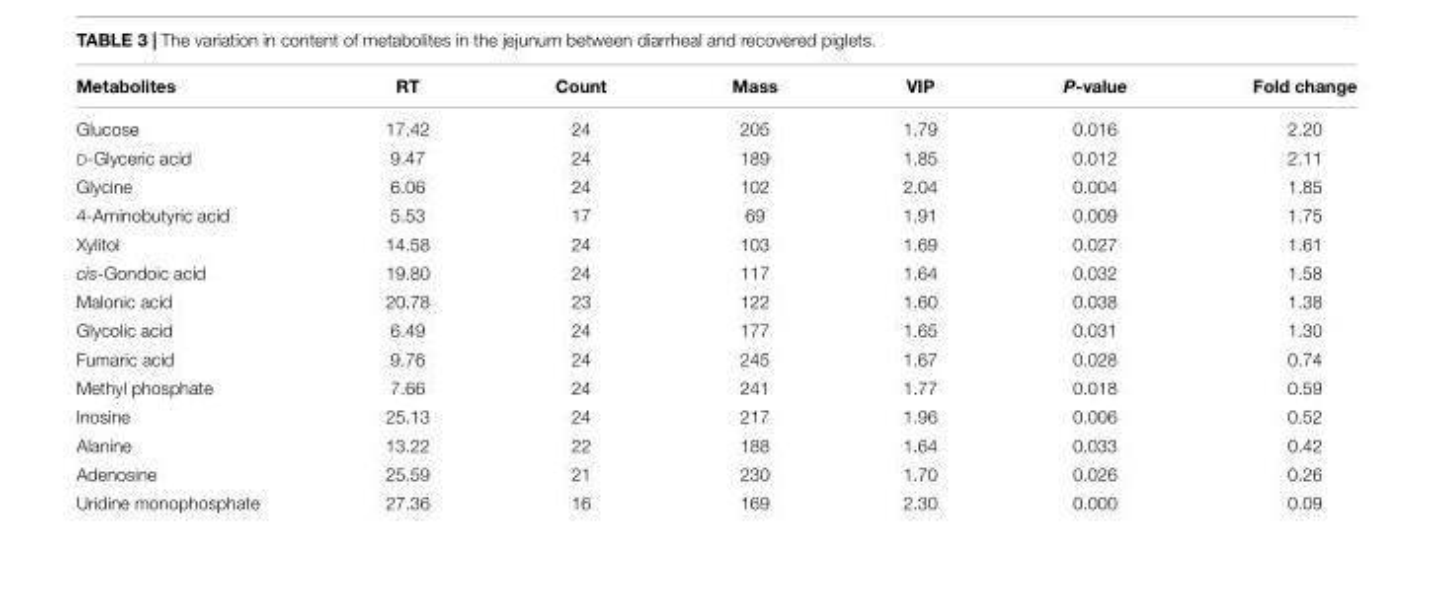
<table><thead><tr><td>Metabolites</td><td>RT</td><td>Count</td><td>Mass</td><td>VIP</td><td>P-value</td><td>Fold change</td></tr></thead><tbody><tr><td>Glucose</td><td>17.42</td><td>24</td><td>205</td><td>1.79</td><td>0.016</td><td>2.20</td></tr><tr><td>D-Glyceric acid</td><td>9.47</td><td>24</td><td>189</td><td>1.85</td><td>0.012</td><td>2.11</td></tr><tr><td>Glycine</td><td>6.06</td><td>24</td><td>102</td><td>2.04</td><td>0.004</td><td>1.85</td></tr><tr><td>4-Aminobutyric acid</td><td>5.53</td><td>17</td><td>69</td><td>1.91</td><td>0.009</td><td>1.75</td></tr><tr><td>Xylitol</td><td>14.58</td><td>24</td><td>103</td><td>1.69</td><td>0.027</td><td>1.61</td></tr><tr><td>cis-Gondoic acid</td><td>19.80</td><td>24</td><td>117</td><td>1.64</td><td>0.032</td><td>1.58</td></tr><tr><td>Malonic acid</td><td>20.78</td><td>23</td><td>122</td><td>1.60</td><td>0.038</td><td>1.38</td></tr><tr><td>Glycolic acid</td><td>6.49</td><td>24</td><td>177</td><td>1.65</td><td>0.031</td><td>1.30</td></tr><tr><td>Fumaric acid</td><td>9.76</td><td>24</td><td>245</td><td>1.67</td><td>0.028</td><td>0.74</td></tr><tr><td>Methyl phosphate</td><td>7.66</td><td>24</td><td>241</td><td>1.77</td><td>0.018</td><td>0.59</td></tr><tr><td>Inosine</td><td>25.13</td><td>24</td><td>217</td><td>1.96</td><td>0.006</td><td>0.52</td></tr><tr><td>Alanine</td><td>13.22</td><td>22</td><td>188</td><td>1.64</td><td>0.033</td><td>0.42</td></tr><tr><td>Adenosine</td><td>25.59</td><td>21</td><td>230</td><td>1.70</td><td>0.026</td><td>0.26</td></tr><tr><td>Uridine monophosphate</td><td>27.36</td><td>16</td><td>169</td><td>2.30</td><td>0.000</td><td>0.09</td></tr></tbody></table>